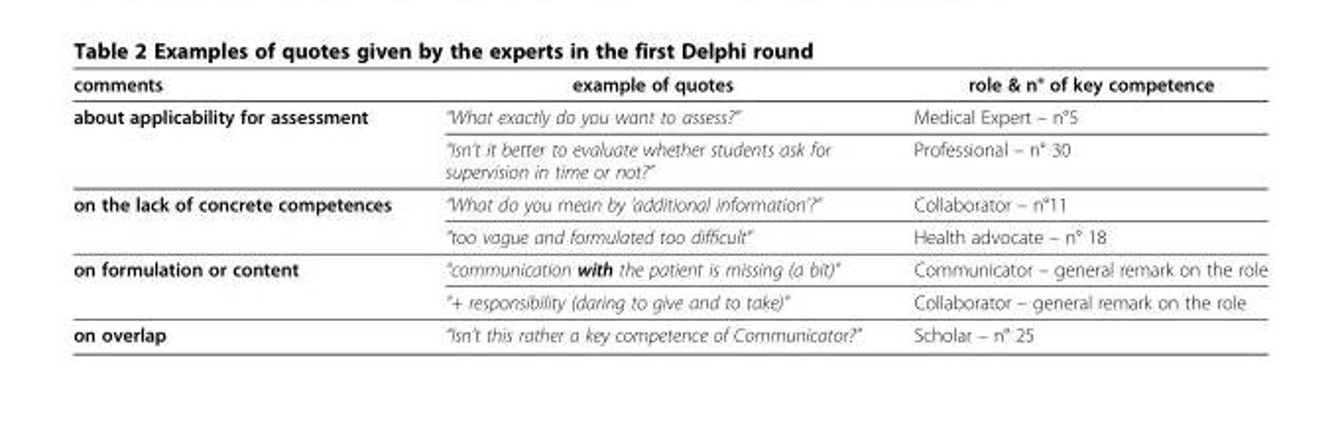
<table><thead><tr><td>comments</td><td>example of quotes</td><td>role &amp; n° of key competence</td></tr></thead><tbody><tr><td rowspan="2">about applicability for assessment</td><td>“What exactly do you want to assess?”</td><td>Medical Expert – n°5</td></tr><tr><td>“Isn’t it better to evaluate whether students ask for supervision in time or not?”</td><td>Professional – n° 30</td></tr><tr><td rowspan="2">on the lack of concrete competences</td><td>“What do you mean by ‘additional information’?”</td><td>Collaborator – n°11</td></tr><tr><td>“too vague and formulated too difficult”</td><td>Health advocate – n° 18</td></tr><tr><td rowspan="2">on formulation or content</td><td>“communication with the patient is missing (a bit)”</td><td>Communicator – general remark on the role</td></tr><tr><td>“+ responsibility (daring to give and to take)”</td><td>Collaborator – general remark on the role</td></tr><tr><td>on overlap</td><td>“Isn’t this rather a key competence of Communicator?”</td><td>Scholar – n° 25</td></tr></tbody></table>